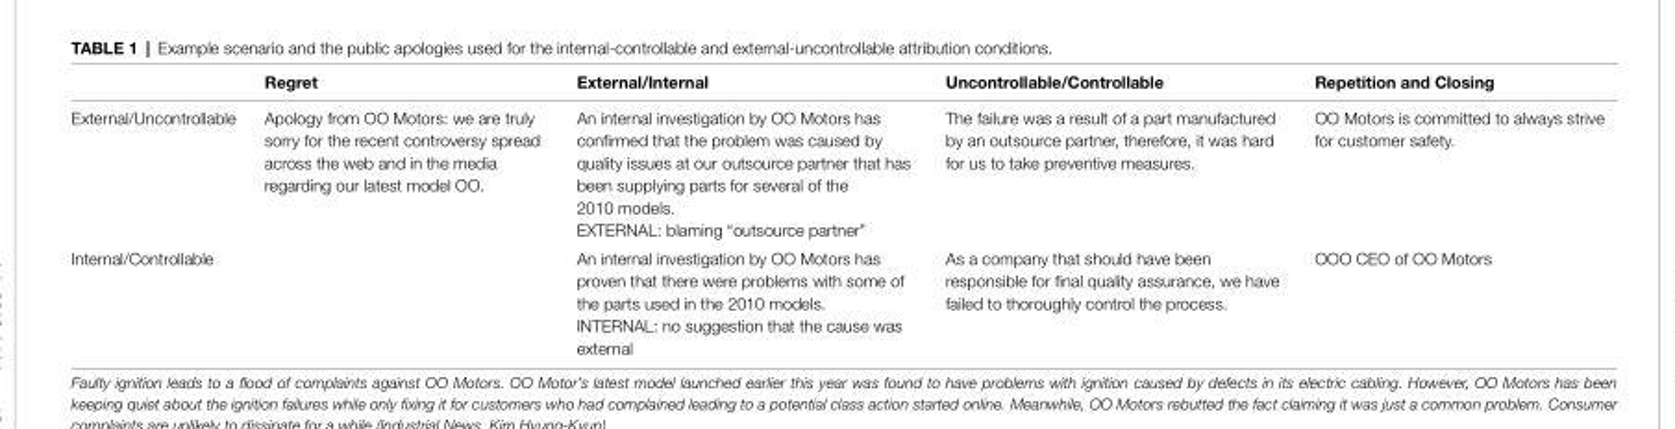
<table><thead><tr><td></td><td>Regret</td><td>External/Internal</td><td>Uncontrollable/Controllable</td><td>Repetition and Closing</td></tr></thead><tbody><tr><td>External/Uncontrollable</td><td>Apology from OO Motors: we are truly sorry for the recent controversy spread across the web and in the media regarding our latest model OO.</td><td>An internal investigation by OO Motors has confirmed that the problem was caused by quality issues at our outsource partner that has been supplying parts for several of the 2010 models. EXTERNAL: blaming “outsource partner”</td><td>The failure was a result of a part manufactured by an outsource partner, therefore, it was hard for us to take preventive measures.</td><td>OO Motors is committed to always strive for customer safety.</td></tr><tr><td>Internal/Controllable</td><td></td><td>An internal investigation by OO Motors has proven that there were problems with some of the parts used in the 2010 models. INTERNAL: no suggestion that the cause was external</td><td>As a company that should have been responsible for final quality assurance, we have failed to thoroughly control the process.</td><td>OOO CEO of OO Motors</td></tr></tbody></table>